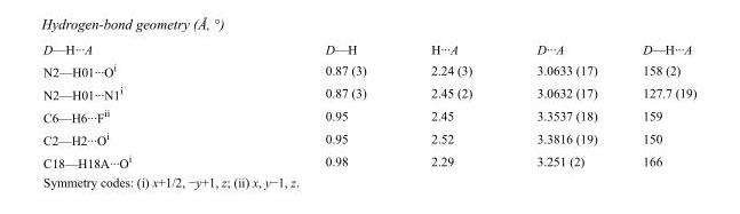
<table><tbody><tr><td>D—H···A</td><td>D—H</td><td>H···A</td><td>D···A</td><td>D—H···A</td></tr><tr><td>N2—H01···O<sup>i</sup></td><td>0.87 (3)</td><td>2.24 (3)</td><td>3.0633 (17)</td><td>158 (2)</td></tr><tr><td>N2—H01···N1<sup>i</sup></td><td>0.87 (3)</td><td>2.45 (2)</td><td>3.0632 (17)</td><td>127.7 (19)</td></tr><tr><td>C6—H6···F<sup>ii</sup></td><td>0.95</td><td>2.45</td><td>3.3537 (18)</td><td>159</td></tr><tr><td>C2—H2···O<sup>i</sup></td><td>0.95</td><td>2.52</td><td>3.3816 (19)</td><td>150</td></tr><tr><td>C18—H18A···O<sup>i</sup></td><td>0.98</td><td>2.29</td><td>3.251 (2)</td><td>166</td></tr></tbody></table>